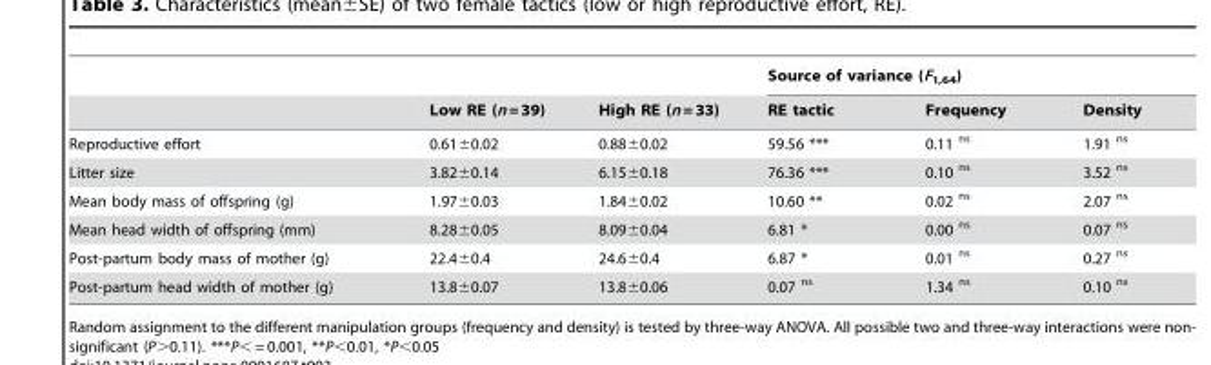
<table><thead><tr><td rowspan="2"></td><td rowspan="2">Low RE (n = 39)</td><td rowspan="2">High RE (n = 33)</td><td colspan="3">Source of variance (F<sub>1,64</sub>)</td></tr><tr><td>RE tactic</td><td>Frequency</td><td>Density</td></tr></thead><tbody><tr><td>Reproductive effort</td><td>0.61±0.02</td><td>0.88±0.02</td><td>59.56 ***</td><td>0.11 <sup>ns</sup></td><td>1.91 <sup>ns</sup></td></tr><tr><td>Litter size</td><td>3.82±0.14</td><td>6.15±0.18</td><td>76.36 ***</td><td>0.10 <sup>ns</sup></td><td>3.52 <sup>ns</sup></td></tr><tr><td>Mean body mass of offspring (g)</td><td>1.97±0.03</td><td>1.84±0.02</td><td>10.60 **</td><td>0.02 <sup>ns</sup></td><td>2.07 <sup>ns</sup></td></tr><tr><td>Mean head width of offspring (mm)</td><td>8.28±0.05</td><td>8.09±0.04</td><td>6.81 *</td><td>0.00 <sup>ns</sup></td><td>0.07 <sup>ns</sup></td></tr><tr><td>Post-partum body mass of mother (g)</td><td>22.4±0.4</td><td>24.6±0.4</td><td>6.87 *</td><td>0.01 <sup>ns</sup></td><td>0.27 <sup>ns</sup></td></tr><tr><td>Post-partum head width of mother (g)</td><td>13.8±0.07</td><td>13.8±0.06</td><td>0.07 <sup>ns</sup></td><td>1.34 <sup>ns</sup></td><td>0.10 <sup>ns</sup></td></tr></tbody></table>